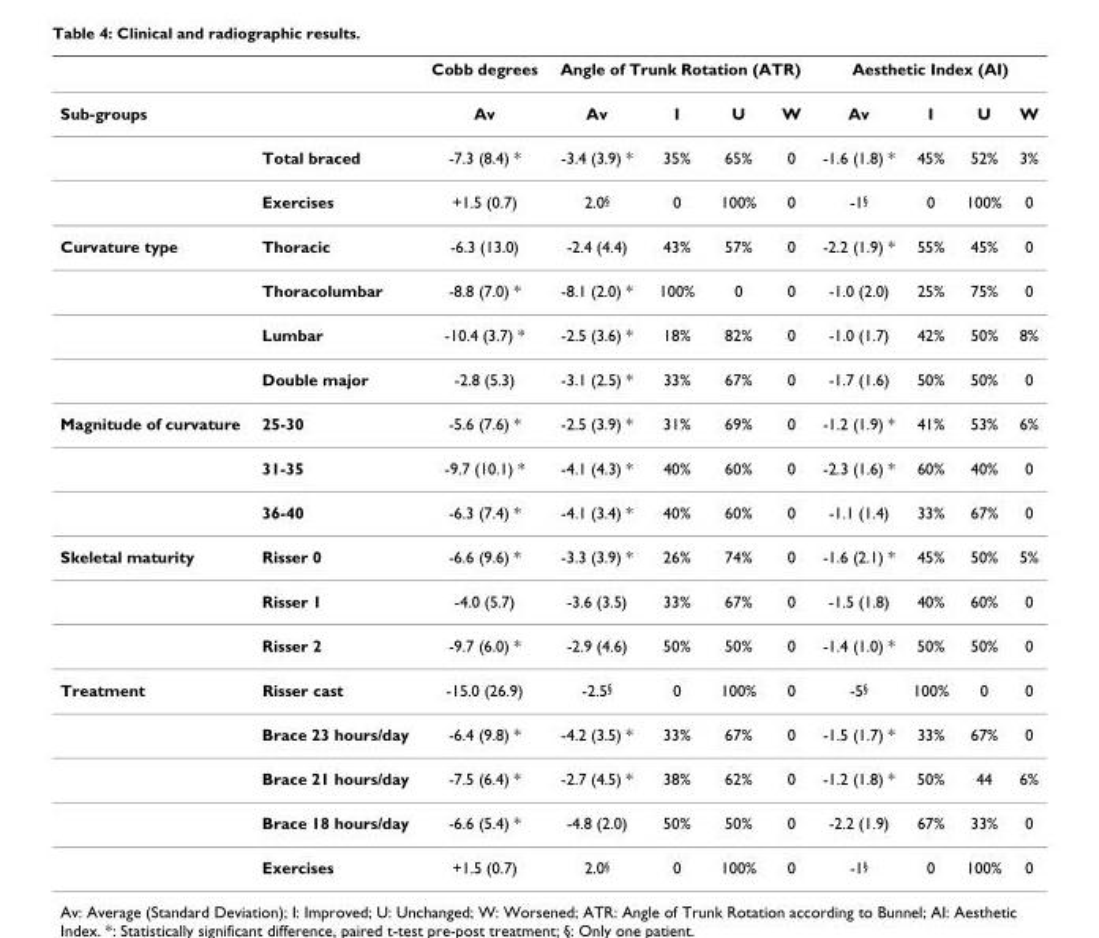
<table><thead><tr><td rowspan="2">Sub-groups</td><td rowspan="2"></td><td rowspan="2">Cobb degrees Av</td><td colspan="4">Angle of Trunk Rotation (ATR)</td><td colspan="4">Aesthetic Index (AI)</td></tr><tr><td>Av</td><td>I</td><td>U</td><td>W</td><td>Av</td><td>I</td><td>U</td><td>W</td></tr></thead><tbody><tr><td></td><td>Total braced</td><td>-7.3 (8.4) *</td><td>-3.4 (3.9) *</td><td>35%</td><td>65%</td><td>0</td><td>-1.6 (1.8) *</td><td>45%</td><td>52%</td><td>3%</td></tr><tr><td></td><td>Exercises</td><td>+1.5 (0.7)</td><td>2.0§</td><td>0</td><td>100%</td><td>0</td><td>-1§</td><td>0</td><td>100%</td><td>0</td></tr><tr><td rowspan="4">Curvature type</td><td>Thoracic</td><td>-6.3 (13.0)</td><td>-2.4 (4.4)</td><td>43%</td><td>57%</td><td>0</td><td>-2.2 (1.9) *</td><td>55%</td><td>45%</td><td>0</td></tr><tr><td>Thoracolumbar</td><td>-8.8 (7.0) *</td><td>-8.1 (2.0) *</td><td>100%</td><td>0</td><td>0</td><td>-1.0 (2.0)</td><td>25%</td><td>75%</td><td>0</td></tr><tr><td>Lumbar</td><td>-10.4 (3.7) *</td><td>-2.5 (3.6) *</td><td>18%</td><td>82%</td><td>0</td><td>-1.0 (1.7)</td><td>42%</td><td>50%</td><td>8%</td></tr><tr><td>Double major</td><td>-2.8 (5.3)</td><td>-3.1 (2.5) *</td><td>33%</td><td>67%</td><td>0</td><td>-1.7 (1.6)</td><td>50%</td><td>50%</td><td>0</td></tr><tr><td rowspan="3">Magnitude of curvature</td><td>25-30</td><td>-5.6 (7.6) *</td><td>-2.5 (3.9) *</td><td>31%</td><td>69%</td><td>0</td><td>-1.2 (1.9) *</td><td>41%</td><td>53%</td><td>6%</td></tr><tr><td>31-35</td><td>-9.7 (10.1) *</td><td>-4.1 (4.3) *</td><td>40%</td><td>60%</td><td>0</td><td>-2.3 (1.6) *</td><td>60%</td><td>40%</td><td>0</td></tr><tr><td>36-40</td><td>-6.3 (7.4) *</td><td>-4.1 (3.4) *</td><td>40%</td><td>60%</td><td>0</td><td>-1.1 (1.4)</td><td>33%</td><td>67%</td><td>0</td></tr><tr><td rowspan="3">Skeletal maturity</td><td>Risser 0</td><td>-6.6 (9.6) *</td><td>-3.3 (3.9) *</td><td>26%</td><td>74%</td><td>0</td><td>-1.6 (2.1) *</td><td>45%</td><td>50%</td><td>5%</td></tr><tr><td>Risser 1</td><td>-4.0 (5.7)</td><td>-3.6 (3.5)</td><td>33%</td><td>67%</td><td>0</td><td>-1.5 (1.8)</td><td>40%</td><td>60%</td><td>0</td></tr><tr><td>Risser 2</td><td>-9.7 (6.0) *</td><td>-2.9 (4.6)</td><td>50%</td><td>50%</td><td>0</td><td>-1.4 (1.0) *</td><td>50%</td><td>50%</td><td>0</td></tr><tr><td rowspan="5">Treatment</td><td>Risser cast</td><td>-15.0 (26.9)</td><td>-2.5<sup>§</sup></td><td>0</td><td>100%</td><td>0</td><td>-5<sup>§</sup></td><td>100%</td><td>0</td><td>0</td></tr><tr><td>Brace 23 hours/day</td><td>-6.4 (9.8) *</td><td>-4.2 (3.5) *</td><td>33%</td><td>67%</td><td>0</td><td>-1.5 (1.7) *</td><td>33%</td><td>67%</td><td>0</td></tr><tr><td>Brace 21 hours/day</td><td>-7.5 (6.4) *</td><td>-2.7 (4.5) *</td><td>38%</td><td>62%</td><td>0</td><td>-1.2 (1.8) *</td><td>50%</td><td>44</td><td>6%</td></tr><tr><td>Brace 18 hours/day</td><td>-6.6 (5.4) *</td><td>-4.8 (2.0)</td><td>50%</td><td>50%</td><td>0</td><td>-2.2 (1.9)</td><td>67%</td><td>33%</td><td>0</td></tr><tr><td>Exercises</td><td>+1.5 (0.7)</td><td>2.0§</td><td>0</td><td>100%</td><td>0</td><td>-1§</td><td>0</td><td>100%</td><td>0</td></tr></tbody></table>